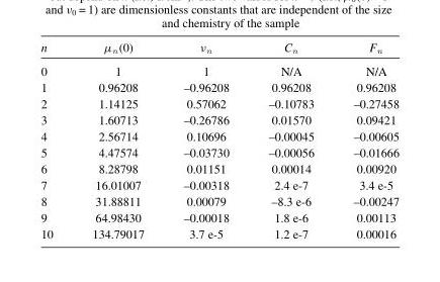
<table><thead><tr><td>n</td><td>μn(0)</td><td>νn</td><td>Cn</td><td>Fn</td></tr></thead><tbody><tr><td>0</td><td>1</td><td>1</td><td>N/A</td><td>N/A</td></tr><tr><td>1</td><td>0.96208</td><td>–0.96208</td><td>0.96208</td><td>0.96208</td></tr><tr><td>2</td><td>1.14125</td><td>0.57062</td><td>–0.10783</td><td>–0.27458</td></tr><tr><td>3</td><td>1.60713</td><td>–0.26786</td><td>0.01570</td><td>0.09421</td></tr><tr><td>4</td><td>2.56714</td><td>0.10696</td><td>–0.00045</td><td>–0.00605</td></tr><tr><td>5</td><td>4.47574</td><td>–0.03730</td><td>–0.00056</td><td>–0.01666</td></tr><tr><td>6</td><td>8.28798</td><td>0.01151</td><td>0.00014</td><td>0.00920</td></tr><tr><td>7</td><td>16.01007</td><td>–0.00318</td><td>2.4 e-7</td><td>3.4 e-5</td></tr><tr><td>8</td><td>31.88811</td><td>0.00079</td><td>–8.3 e-6</td><td>–0.00247</td></tr><tr><td>9</td><td>64.98430</td><td>–0.00018</td><td>1.8 e-6</td><td>0.00113</td></tr><tr><td>10</td><td>134.79017</td><td>3.7 e-5</td><td>1.2 e-7</td><td>0.00016</td></tr></tbody></table>